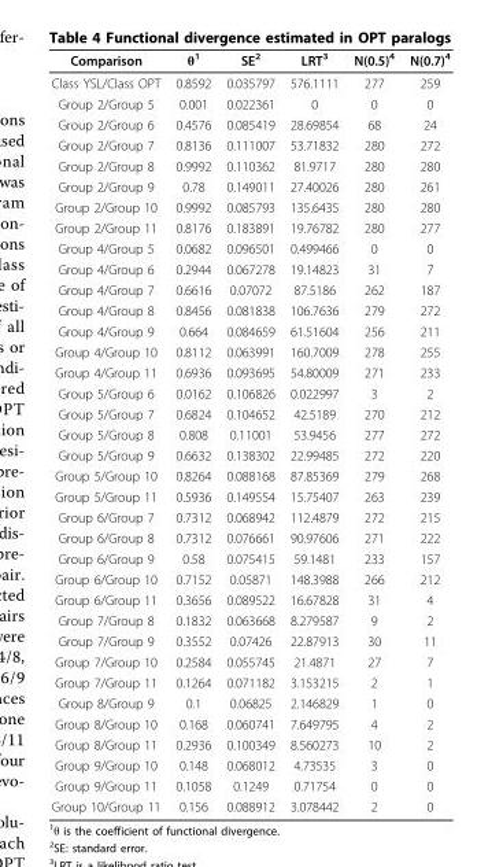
<table><thead><tr><td>Comparison</td><td>θ<sup>1</sup></td><td>SE<sup>2</sup></td><td>LRT<sup>3</sup></td><td>N(0.5)<sup>4</sup></td><td>N(0.7)<sup>4</sup></td></tr></thead><tbody><tr><td>Class YSL/Class OPT</td><td>0.8592</td><td>0.035797</td><td>576.1111</td><td>277</td><td>259</td></tr><tr><td>Group 2/Group 5</td><td>0.001</td><td>0.022361</td><td>0</td><td>0</td><td>0</td></tr><tr><td>Group 2/Group 6</td><td>0.4576</td><td>0.085419</td><td>28.69854</td><td>68</td><td>24</td></tr><tr><td>Group 2/Group 7</td><td>0.8136</td><td>0.111007</td><td>53.71832</td><td>280</td><td>272</td></tr><tr><td>Group 2/Group 8</td><td>0.9992</td><td>0.110362</td><td>81.9717</td><td>280</td><td>280</td></tr><tr><td>Group 2/Group 9</td><td>0.78</td><td>0.149011</td><td>27.40026</td><td>280</td><td>261</td></tr><tr><td>Group 2/Group 10</td><td>0.9992</td><td>0.085793</td><td>135.6435</td><td>280</td><td>280</td></tr><tr><td>Group 2/Group 11</td><td>0.8176</td><td>0.183891</td><td>19.76782</td><td>280</td><td>277</td></tr><tr><td>Group 4/Group 5</td><td>0.0682</td><td>0.096501</td><td>0.499466</td><td>0</td><td>0</td></tr><tr><td>Group 4/Group 6</td><td>0.2944</td><td>0.067278</td><td>19.14823</td><td>31</td><td>7</td></tr><tr><td>Group 4/Group 7</td><td>0.6616</td><td>0.07072</td><td>87.5186</td><td>262</td><td>187</td></tr><tr><td>Group 4/Group 8</td><td>0.8456</td><td>0.081838</td><td>106.7636</td><td>279</td><td>272</td></tr><tr><td>Group 4/Group 9</td><td>0.664</td><td>0.084659</td><td>61.51604</td><td>256</td><td>211</td></tr><tr><td>Group 4/Group 10</td><td>0.8112</td><td>0.063991</td><td>160.7009</td><td>278</td><td>255</td></tr><tr><td>Group 4/Group 11</td><td>0.6936</td><td>0.093695</td><td>54.80009</td><td>271</td><td>233</td></tr><tr><td>Group 5/Group 6</td><td>0.0162</td><td>0.106826</td><td>0.022997</td><td>3</td><td>2</td></tr><tr><td>Group 5/Group 7</td><td>0.6824</td><td>0.104652</td><td>42.5189</td><td>270</td><td>212</td></tr><tr><td>Group 5/Group 8</td><td>0.808</td><td>0.11001</td><td>53.9456</td><td>277</td><td>272</td></tr><tr><td>Group 5/Group 9</td><td>0.6632</td><td>0.138302</td><td>22.99485</td><td>272</td><td>220</td></tr><tr><td>Group 5/Group 10</td><td>0.8264</td><td>0.088168</td><td>87.85369</td><td>279</td><td>268</td></tr><tr><td>Group 5/Group 11</td><td>0.5936</td><td>0.149554</td><td>15.75407</td><td>263</td><td>239</td></tr><tr><td>Group 6/Group 7</td><td>0.7312</td><td>0.068942</td><td>112.4879</td><td>272</td><td>215</td></tr><tr><td>Group 6/Group 8</td><td>0.7312</td><td>0.076661</td><td>90.97606</td><td>271</td><td>222</td></tr><tr><td>Group 6/Group 9</td><td>0.58</td><td>0.075415</td><td>59.1481</td><td>233</td><td>157</td></tr><tr><td>Group 6/Group 10</td><td>0.7152</td><td>0.05871</td><td>148.3988</td><td>266</td><td>212</td></tr><tr><td>Group 6/Group 11</td><td>0.3656</td><td>0.089522</td><td>16.67828</td><td>31</td><td>4</td></tr><tr><td>Group 7/Group 8</td><td>0.1832</td><td>0.063668</td><td>8.279587</td><td>9</td><td>2</td></tr><tr><td>Group 7/Group 9</td><td>0.3552</td><td>0.07426</td><td>22.87913</td><td>30</td><td>11</td></tr><tr><td>Group 7/Group 10</td><td>0.2584</td><td>0.055745</td><td>21.4871</td><td>27</td><td>7</td></tr><tr><td>Group 7/Group 11</td><td>0.1264</td><td>0.071182</td><td>3.153215</td><td>2</td><td>1</td></tr><tr><td>Group 8/Group 9</td><td>0.1</td><td>0.06825</td><td>2.146829</td><td>1</td><td>0</td></tr><tr><td>Group 8/Group 10</td><td>0.168</td><td>0.060741</td><td>7.649795</td><td>4</td><td>2</td></tr><tr><td>Group 8/Group 11</td><td>0.2936</td><td>0.100349</td><td>8.560273</td><td>10</td><td>2</td></tr><tr><td>Group 9/Group 10</td><td>0.148</td><td>0.068012</td><td>4.73535</td><td>3</td><td>0</td></tr><tr><td>Group 9/Group 11</td><td>0.1058</td><td>0.1249</td><td>0.71754</td><td>0</td><td>0</td></tr><tr><td>Group 10/Group 11</td><td>0.156</td><td>0.088912</td><td>3.078442</td><td>2</td><td>0</td></tr></tbody></table>